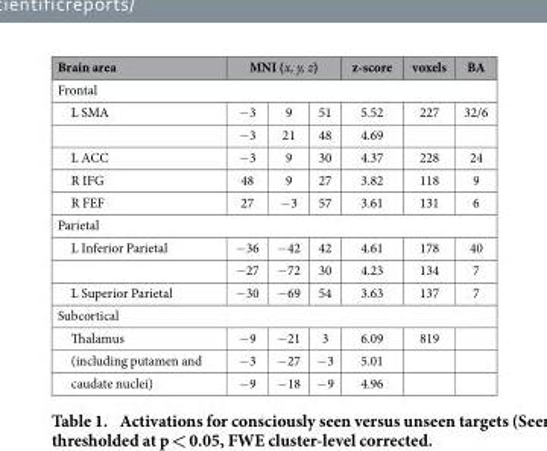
<table><thead><tr><td>Brain area</td><td colspan="3">MNI (x, y, z)</td><td>z-score</td><td>voxels</td><td>BA</td></tr><tr><td colspan="7">Frontal</td></tr><tr><td>L SMA</td><td>− 3</td><td>9</td><td>51</td><td>5.52</td><td>227</td><td>32/6</td></tr></thead><tbody><tr><td></td><td>− 3</td><td>21</td><td>48</td><td>4.69</td><td></td><td></td></tr><tr><td>L ACC</td><td>− 3</td><td>9</td><td>30</td><td>4.37</td><td>228</td><td>24</td></tr><tr><td>R IFG</td><td>48</td><td>9</td><td>27</td><td>3.82</td><td>118</td><td>9</td></tr><tr><td>R FEF</td><td>27</td><td>− 3</td><td>57</td><td>3.61</td><td>131</td><td>6</td></tr><tr><td colspan="7">Parietal</td></tr><tr><td rowspan="2">L Inferior Parietal</td><td>− 36</td><td>− 42</td><td>42</td><td>4.61</td><td>178</td><td>40</td></tr><tr><td>− 27</td><td>− 72</td><td>30</td><td>4.23</td><td>134</td><td>7</td></tr><tr><td>L Superior Parietal</td><td>− 30</td><td>− 69</td><td>54</td><td>3.63</td><td>137</td><td>7</td></tr><tr><td colspan="7">Subcortical</td></tr><tr><td>Thalamus</td><td>− 9</td><td>− 21</td><td>3</td><td>6.09</td><td>819</td><td></td></tr><tr><td>(including putamen and</td><td>− 3</td><td>− 27</td><td>− 3</td><td>5.01</td><td></td><td></td></tr><tr><td>caudate nuclei)</td><td>− 9</td><td>− 18</td><td>− 9</td><td>4.96</td><td></td><td></td></tr></tbody></table>